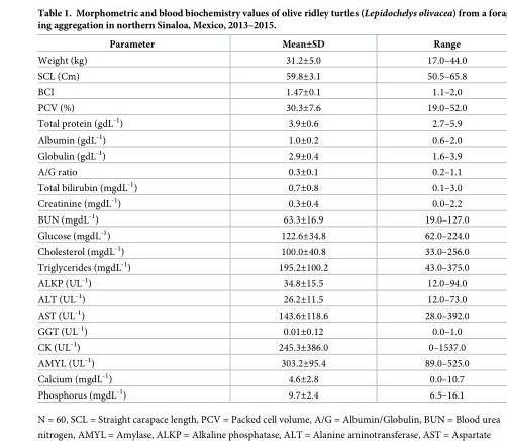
<table><thead><tr><td>Parameter</td><td>Mean±SD</td><td>Range</td></tr></thead><tbody><tr><td>Weight (kg)</td><td>31.2±5.0</td><td>17.0–44.0</td></tr><tr><td>SCL (Cm)</td><td>59.8±3.1</td><td>50.5–65.8</td></tr><tr><td>BCI</td><td>1.47±0.1</td><td>1.1–2.0</td></tr><tr><td>PCV (%)</td><td>30.3±7.6</td><td>19.0–52.0</td></tr><tr><td>Total protein (gdL<sup>-1</sup>)</td><td>3.9±0.6</td><td>2.7–5.9</td></tr><tr><td>Albumin (gdL<sup>-1</sup>)</td><td>1.0±0.2</td><td>0.6–2.0</td></tr><tr><td>Globulin (gdL<sup>-1</sup>)</td><td>2.9±0.4</td><td>1.6–3.9</td></tr><tr><td>A/G ratio</td><td>0.3±0.1</td><td>0.2–1.1</td></tr><tr><td>Total bilirubin (mgdL<sup>-1</sup>)</td><td>0.7±0.8</td><td>0.1–3.0</td></tr><tr><td>Creatinine (mgdL<sup>-1</sup>)</td><td>0.3±0.4</td><td>0.0–2.2</td></tr><tr><td>BUN (mgdL<sup>-1</sup>)</td><td>63.3±16.9</td><td>19.0–127.0</td></tr><tr><td>Glucose (mgdL<sup>-1</sup>)</td><td>122.6±34.8</td><td>62.0–224.0</td></tr><tr><td>Cholesterol (mgdL<sup>-1</sup>)</td><td>100.0±40.8</td><td>33.0–256.0</td></tr><tr><td>Triglycerides (mgdL<sup>-1</sup>)</td><td>195.2±100.2</td><td>43.0–375.0</td></tr><tr><td>ALKP (UL<sup>-1</sup>)</td><td>34.8±15.5</td><td>12.0–94.0</td></tr><tr><td>ALT (UL<sup>-1</sup>)</td><td>26.2±11.5</td><td>12.0–73.0</td></tr><tr><td>AST (UL<sup>-1</sup>)</td><td>143.6±118.6</td><td>28.0–392.0</td></tr><tr><td>GGT (UL<sup>-1</sup>)</td><td>0.01±0.12</td><td>0.0–1.0</td></tr><tr><td>CK (UL<sup>-1</sup>)</td><td>245.3±386.0</td><td>0–1537.0</td></tr><tr><td>AMYL (UL<sup>-1</sup>)</td><td>303.2±95.4</td><td>89.0–525.0</td></tr><tr><td>Calcium (mgdL<sup>-1</sup>)</td><td>4.6±2.8</td><td>0.0–10.7</td></tr><tr><td>Phosphorus (mgdL<sup>-1</sup>)</td><td>9.7±2.4</td><td>6.5–16.1</td></tr></tbody></table>